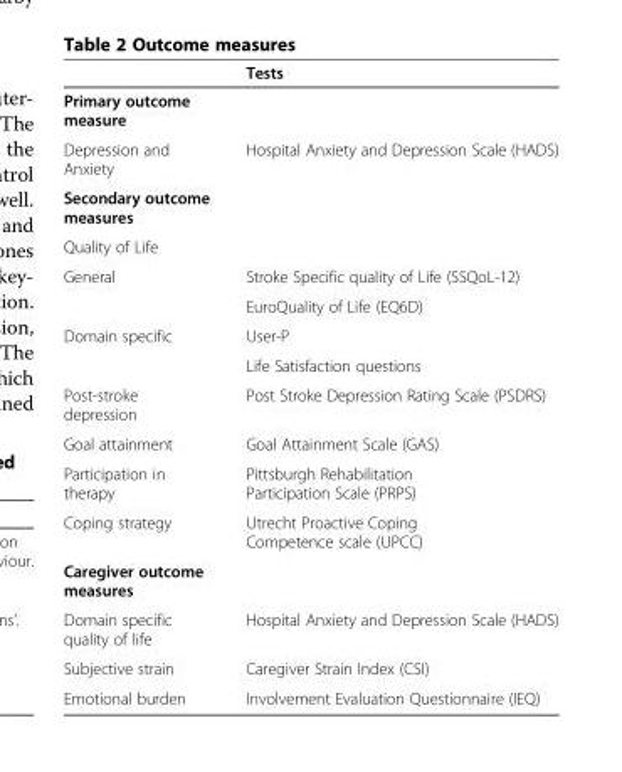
<table><thead><tr><td></td><td>Tests</td></tr></thead><tbody><tr><td colspan="2">Primary outcome measure</td></tr><tr><td>Depression and Anxiety</td><td>Hospital Anxiety and Depression Scale (HADS)</td></tr><tr><td colspan="2">Secondary outcome measures</td></tr><tr><td colspan="2">Quality of Life</td></tr><tr><td rowspan="2">General</td><td>Stroke Specific quality of Life (SSQoL-12)</td></tr><tr><td>EuroQuality of Life (EQ6D)</td></tr><tr><td rowspan="2">Domain specific</td><td>User-P</td></tr><tr><td>Life Satisfaction questions</td></tr><tr><td>Post-stroke depression</td><td>Post Stroke Depression Rating Scale (PSDRS)</td></tr><tr><td>Goal attainment</td><td>Goal Attainment Scale (GAS)</td></tr><tr><td>Participation in therapy</td><td>Pittsburgh Rehabilitation Participation Scale (PRPS)</td></tr><tr><td>Coping strategy</td><td>Utrecht Proactive Coping Competence scale (UPCC)</td></tr><tr><td colspan="2">Caregiver outcome measures</td></tr><tr><td>Domain specific quality of life</td><td>Hospital Anxiety and Depression Scale (HADS)</td></tr><tr><td>Subjective strain</td><td>Caregiver Strain Index (CSI)</td></tr><tr><td>Emotional burden</td><td>Involvement Evaluation Questionnaire (IEQ)</td></tr></tbody></table>